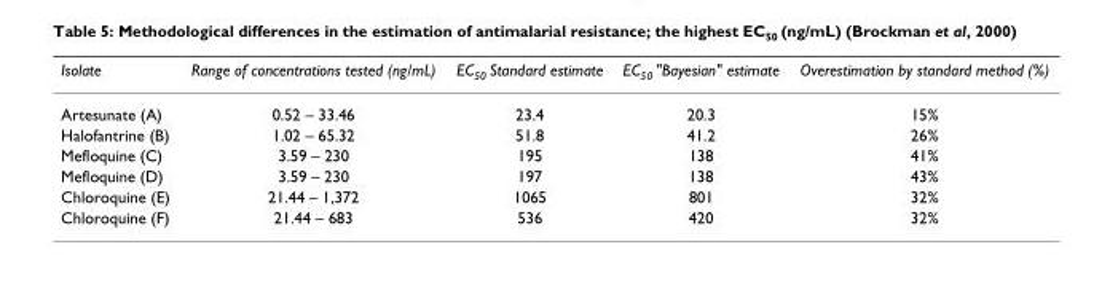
<table><thead><tr><td>Isolate</td><td>Range of concentrations tested (ng/mL)</td><td>EC<sub>50</sub> Standard estimate</td><td>EC<sub>50</sub> &quot;Bayesian&quot; estimate</td><td>Overestimation by standard method (%)</td></tr></thead><tbody><tr><td>Artesunate (A)</td><td>0.52 – 33.46</td><td>23.4</td><td>20.3</td><td>15%</td></tr><tr><td>Halofantrine (B)</td><td>1.02 – 65.32</td><td>51.8</td><td>41.2</td><td>26%</td></tr><tr><td>Mefloquine (C)</td><td>3.59 – 230</td><td>195</td><td>138</td><td>41%</td></tr><tr><td>Mefloquine (D)</td><td>3.59 – 230</td><td>197</td><td>138</td><td>43%</td></tr><tr><td>Chloroquine (E)</td><td>21.44 – 1,372</td><td>1065</td><td>801</td><td>32%</td></tr><tr><td>Chloroquine (F)</td><td>21.44 – 683</td><td>536</td><td>420</td><td>32%</td></tr></tbody></table>